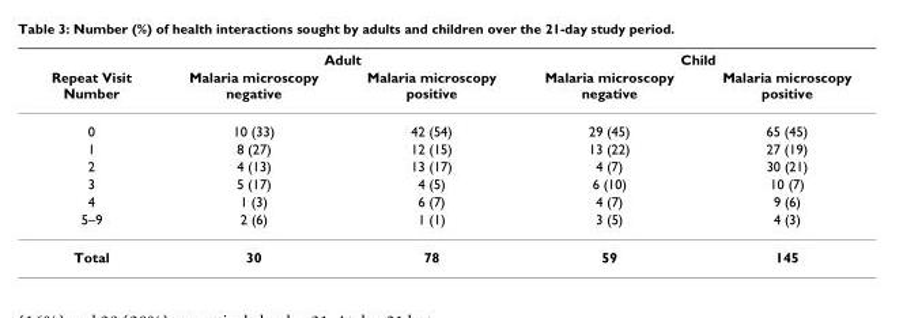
<table><thead><tr><td rowspan="2">Repeat Visit Number</td><td colspan="2">Adult</td><td colspan="2">Child</td></tr><tr><td>Malaria microscopy negative</td><td>Malaria microscopy positive</td><td>Malaria microscopy negative</td><td>Malaria microscopy positive</td></tr></thead><tbody><tr><td>0</td><td>10 (33)</td><td>42 (54)</td><td>29 (45)</td><td>65 (45)</td></tr><tr><td>1</td><td>8 (27)</td><td>12 (15)</td><td>13 (22)</td><td>27 (19)</td></tr><tr><td>2</td><td>4 (13)</td><td>13 (17)</td><td>4 (7)</td><td>30 (21)</td></tr><tr><td>3</td><td>5 (17)</td><td>4 (5)</td><td>6 (10)</td><td>10 (7)</td></tr><tr><td>4</td><td>1 (3)</td><td>6 (7)</td><td>4 (7)</td><td>9 (6)</td></tr><tr><td>5–9</td><td>2 (6)</td><td>1 (1)</td><td>3 (5)</td><td>4 (3)</td></tr><tr><td>Total</td><td>30</td><td>78</td><td>59</td><td>145</td></tr></tbody></table>